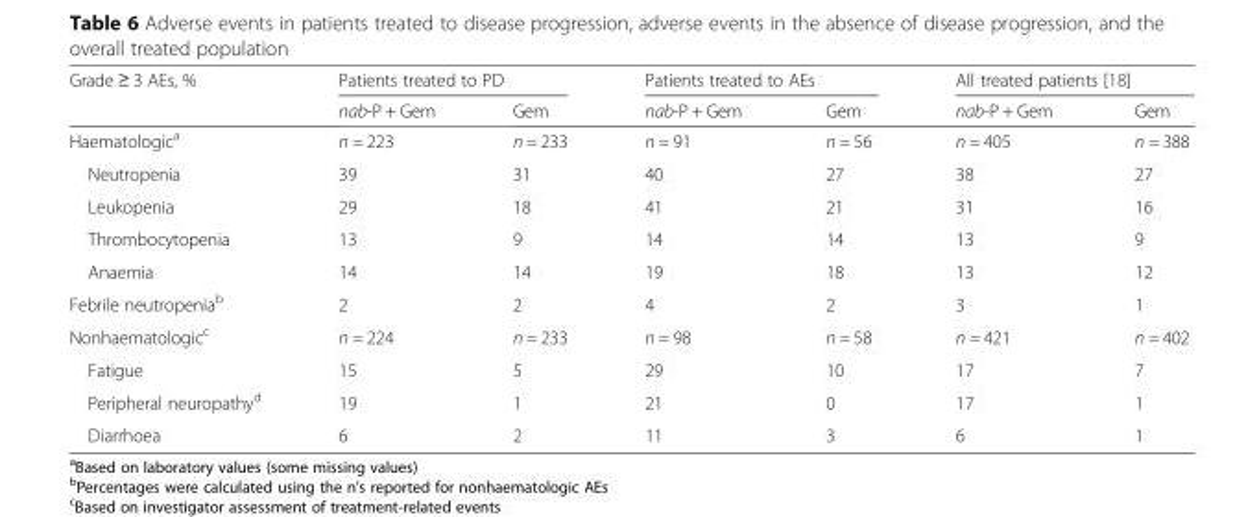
<table><thead><tr><td rowspan="2">Grade ≥ 3 AEs, %</td><td colspan="2">Patients treated to PD</td><td colspan="2">Patients treated to AEs</td><td colspan="2">All treated patients [18]</td></tr><tr><td>nab-P + Gem</td><td>Gem</td><td>nab-P + Gem</td><td>Gem</td><td>nab-P + Gem</td><td>Gem</td></tr></thead><tbody><tr><td>Haematologic<sup>a</sup></td><td>n = 223</td><td>n = 233</td><td>n = 91</td><td>n = 56</td><td>n = 405</td><td>n = 388</td></tr><tr><td>Neutropenia</td><td>39</td><td>31</td><td>40</td><td>27</td><td>38</td><td>27</td></tr><tr><td>Leukopenia</td><td>29</td><td>18</td><td>41</td><td>21</td><td>31</td><td>16</td></tr><tr><td>Thrombocytopenia</td><td>13</td><td>9</td><td>14</td><td>14</td><td>13</td><td>9</td></tr><tr><td>Anaemia</td><td>14</td><td>14</td><td>19</td><td>18</td><td>13</td><td>12</td></tr><tr><td>Febrile neutropenia<sup>b</sup></td><td>2</td><td>2</td><td>4</td><td>2</td><td>3</td><td>1</td></tr><tr><td>Nonhaematologic<sup>c</sup></td><td>n = 224</td><td>n = 233</td><td>n = 98</td><td>n = 58</td><td>n = 421</td><td>n = 402</td></tr><tr><td>Fatigue</td><td>15</td><td>5</td><td>29</td><td>10</td><td>17</td><td>7</td></tr><tr><td>Peripheral neuropathy<sup>d</sup></td><td>19</td><td>1</td><td>21</td><td>0</td><td>17</td><td>1</td></tr><tr><td>Diarrhoea</td><td>6</td><td>2</td><td>11</td><td>3</td><td>6</td><td>1</td></tr></tbody></table>